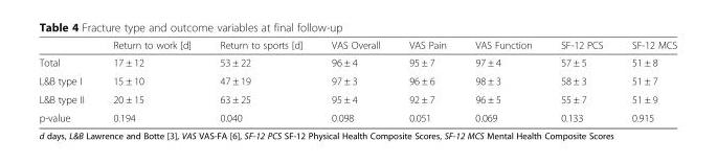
<table><thead><tr><td></td><td>Return to work [d]</td><td>Return to sports [d]</td><td>VAS Overall</td><td>VAS Pain</td><td>VAS Function</td><td>SF-12 PCS</td><td>SF-12 MCS</td></tr></thead><tbody><tr><td>Total</td><td>17 ± 12</td><td>53 ± 22</td><td>96 ± 4</td><td>95 ± 7</td><td>97 ± 4</td><td>57 ± 5</td><td>51 ± 8</td></tr><tr><td>L&amp;B type I</td><td>15 ± 10</td><td>47 ± 19</td><td>97 ± 3</td><td>96 ± 6</td><td>98 ± 3</td><td>58 ± 3</td><td>51 ± 7</td></tr><tr><td>L&amp;B type II</td><td>20 ± 15</td><td>63 ± 25</td><td>95 ± 4</td><td>92 ± 7</td><td>96 ± 5</td><td>55 ± 7</td><td>51 ± 9</td></tr><tr><td>p-value</td><td>0.194</td><td>0.040</td><td>0.098</td><td>0.051</td><td>0.069</td><td>0.133</td><td>0.915</td></tr></tbody></table>